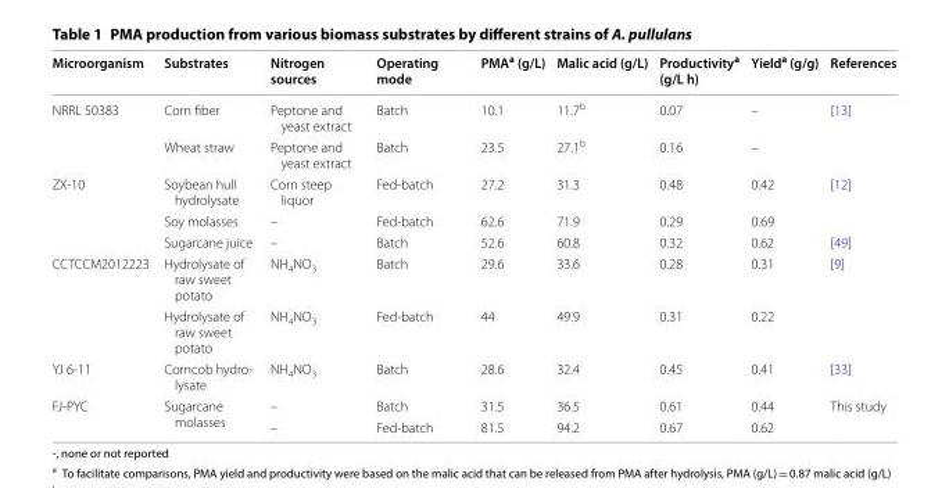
<table><thead><tr><td>Microorganism</td><td>Substrates</td><td>Nitrogen sources</td><td>Operating mode</td><td>PMA<sup>a</sup> (g/L)</td><td>Malic acid (g/L)</td><td>Productivity<sup>a</sup> (g/L h)</td><td>Yield<sup>a</sup> (g/g)</td><td>References</td></tr></thead><tbody><tr><td rowspan="2">NRRL 50383</td><td>Corn fiber</td><td>Peptone and yeast extract</td><td>Batch</td><td>10.1</td><td>11.7<sup>b</sup></td><td>0.07</td><td>–</td><td rowspan="2">[13]</td></tr><tr><td>Wheat straw</td><td>Peptone and yeast extract</td><td>Batch</td><td>23.5</td><td>27.1<sup>b</sup></td><td>0.16</td><td>–</td></tr><tr><td rowspan="3">ZX-10</td><td>Soybean hull hydrolysate</td><td>Corn steep liquor</td><td>Fed-batch</td><td>27.2</td><td>31.3</td><td>0.48</td><td>0.42</td><td>[12]</td></tr><tr><td>Soy molasses</td><td>–</td><td>Fed-batch</td><td>62.6</td><td>71.9</td><td>0.29</td><td>0.69</td><td></td></tr><tr><td>Sugarcane juice</td><td>–</td><td>Batch</td><td>52.6</td><td>60.8</td><td>0.32</td><td>0.62</td><td>[49]</td></tr><tr><td rowspan="2">CCTCCM2012223</td><td>Hydrolysate of raw sweet potato</td><td>NH<sub>4</sub>NO<sub>3</sub></td><td>Batch</td><td>29.6</td><td>33.6</td><td>0.28</td><td>0.31</td><td rowspan="2">[9]</td></tr><tr><td>Hydrolysate of raw sweet potato</td><td>NH<sub>4</sub>NO<sub>3</sub></td><td>Fed-batch</td><td>44</td><td>49.9</td><td>0.31</td><td>0.22</td></tr><tr><td>YJ 6-11</td><td>Corncob hydro- lysate</td><td>NH<sub>4</sub>NO<sub>3</sub></td><td>Batch</td><td>28.6</td><td>32.4</td><td>0.45</td><td>0.41</td><td>[33]</td></tr><tr><td rowspan="2">FJ-PYC</td><td rowspan="2">Sugarcane molasses</td><td>–</td><td>Batch</td><td>31.5</td><td>36.5</td><td>0.61</td><td>0.44</td><td rowspan="2">This study</td></tr><tr><td>–</td><td>Fed-batch</td><td>81.5</td><td>94.2</td><td>0.67</td><td>0.62</td></tr></tbody></table>